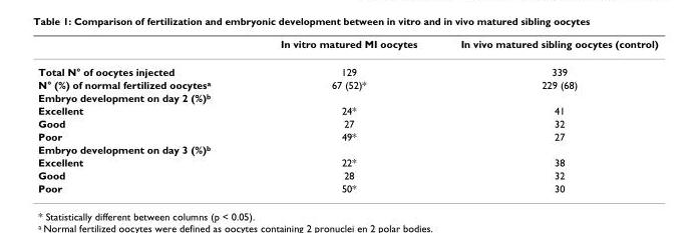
<table><thead><tr><td></td><td>In vitro matured MI oocytes</td><td>In vivo matured sibling oocytes (control)</td></tr></thead><tbody><tr><td>Total N° of oocytes injected</td><td>129</td><td>339</td></tr><tr><td>N° (%) of normal fertilized oocytes<sup>a</sup></td><td>67 (52)*</td><td>229 (68)</td></tr><tr><td colspan="3">Embryo development on day 2 (%)<sup>b</sup></td></tr><tr><td>Excellent</td><td>24*</td><td>41</td></tr><tr><td>Good</td><td>27</td><td>32</td></tr><tr><td>Poor</td><td>49*</td><td>27</td></tr><tr><td colspan="3">Embryo development on day 3 (%)<sup>b</sup></td></tr><tr><td>Excellent</td><td>22*</td><td>38</td></tr><tr><td>Good</td><td>28</td><td>32</td></tr><tr><td>Poor</td><td>50*</td><td>30</td></tr></tbody></table>